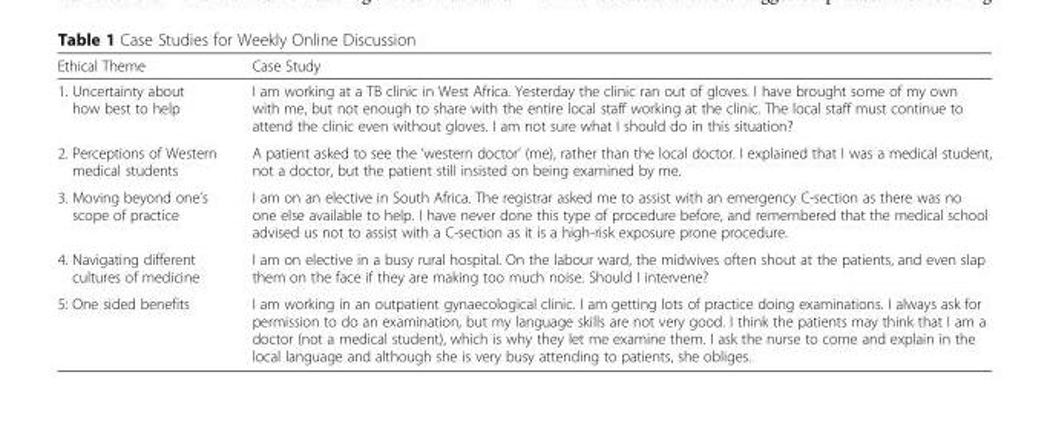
<table><thead><tr><td>Ethical Theme</td><td>Case Study</td></tr></thead><tbody><tr><td>1. Uncertainty about how best to help</td><td>I am working at a TB clinic in West Africa. Yesterday the clinic ran out of gloves. I have brought some of my own with me, but not enough to share with the entire local staff working at the clinic. The local staff must continue to attend the clinic even without gloves. I am not sure what I should do in this situation?</td></tr><tr><td>2. Perceptions of Western medical students</td><td>A patient asked to see the ‘western doctor’ (me), rather than the local doctor. I explained that I was a medical student, not a doctor, but the patient still insisted on being examined by me.</td></tr><tr><td>3. Moving beyond one’s scope of practice</td><td>I am on an elective in South Africa. The registrar asked me to assist with an emergency C-section as there was no one else available to help. I have never done this type of procedure before, and remembered that the medical school advised us not to assist with a C-section as it is a high-risk exposure prone procedure.</td></tr><tr><td>4. Navigating different cultures of medicine</td><td>I am on elective in a busy rural hospital. On the labour ward, the midwives often shout at the patients, and even slap them on the face if they are making too much noise. Should I intervene?</td></tr><tr><td>5: One sided benefits</td><td>I am working in an outpatient gynaecological clinic. I am getting lots of practice doing examinations. I always ask for permission to do an examination, but my language skills are not very good. I think the patients may think that I am a doctor (not a medical student), which is why they let me examine them. I ask the nurse to come and explain in the local language and although she is very busy attending to patients, she obliges.</td></tr></tbody></table>